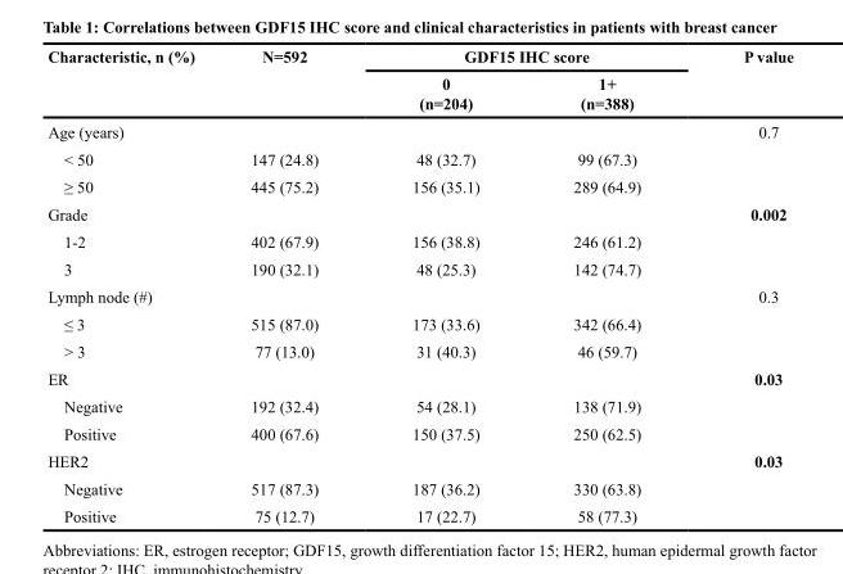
<table><thead><tr><td rowspan="2">Characteristic, n (%)</td><td rowspan="2">N=592</td><td colspan="2">GDF15 IHC score</td><td rowspan="2">P value</td></tr><tr><td>0 (n=204)</td><td>1+ (n=388)</td></tr></thead><tbody><tr><td colspan="4">Age (years)</td><td rowspan="3">0.7</td></tr><tr><td>&lt; 50</td><td>147 (24.8)</td><td>48 (32.7)</td><td>99 (67.3)</td></tr><tr><td>≥ 50</td><td>445 (75.2)</td><td>156 (35.1)</td><td>289 (64.9)</td></tr><tr><td colspan="4">Grade</td><td rowspan="3">0.002</td></tr><tr><td>1-2</td><td>402 (67.9)</td><td>156 (38.8)</td><td>246 (61.2)</td></tr><tr><td>3</td><td>190 (32.1)</td><td>48 (25.3)</td><td>142 (74.7)</td></tr><tr><td colspan="4">Lymph node (#)</td><td rowspan="3">0.3</td></tr><tr><td>≤ 3</td><td>515 (87.0)</td><td>173 (33.6)</td><td>342 (66.4)</td></tr><tr><td>&gt; 3</td><td>77 (13.0)</td><td>31 (40.3)</td><td>46 (59.7)</td></tr><tr><td colspan="4">ER</td><td rowspan="3">0.03</td></tr><tr><td>Negative</td><td>192 (32.4)</td><td>54 (28.1)</td><td>138 (71.9)</td></tr><tr><td>Positive</td><td>400 (67.6)</td><td>150 (37.5)</td><td>250 (62.5)</td></tr><tr><td colspan="4">HER2</td><td rowspan="3">0.03</td></tr><tr><td>Negative</td><td>517 (87.3)</td><td>187 (36.2)</td><td>330 (63.8)</td></tr><tr><td>Positive</td><td>75 (12.7)</td><td>17 (22.7)</td><td>58 (77.3)</td></tr></tbody></table>